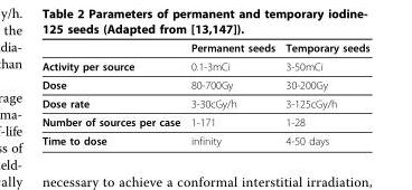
<table><thead><tr><td></td><td>Permanent seeds</td><td>Temporary seeds</td></tr></thead><tbody><tr><td>Activity per source</td><td>0.1-3mCi</td><td>3-50mCi</td></tr><tr><td>Dose</td><td>80-700Gy</td><td>30-200Gy</td></tr><tr><td>Dose rate</td><td>3-30cGy/h</td><td>3-125cGy/h</td></tr><tr><td>Number of sources per case</td><td>1-171</td><td>1-28</td></tr><tr><td>Time to dose</td><td>infinity</td><td>4-50 days</td></tr></tbody></table>